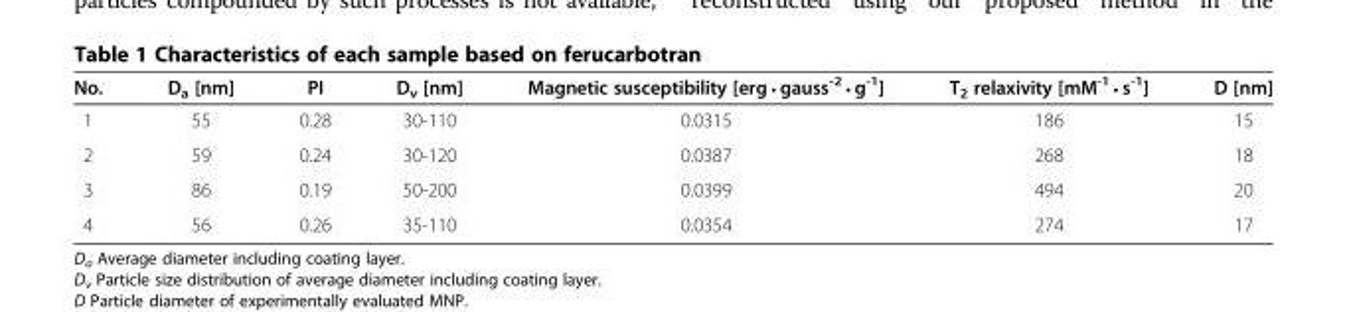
<table><thead><tr><td>No.</td><td>D<sub>a</sub> [nm]</td><td>PI</td><td>D<sub>v</sub> [nm]</td><td>Magnetic susceptibility [erg • gauss-2 • g-1]</td><td>T2 relaxivity [mM-1 • s-1]</td><td>D [nm]</td></tr></thead><tbody><tr><td>1</td><td>55</td><td>0.28</td><td>30-110</td><td>0.0315</td><td>186</td><td>15</td></tr><tr><td>2</td><td>59</td><td>0.24</td><td>30-120</td><td>0.0387</td><td>268</td><td>18</td></tr><tr><td>3</td><td>86</td><td>0.19</td><td>50-200</td><td>0.0399</td><td>494</td><td>20</td></tr><tr><td>4</td><td>56</td><td>0.26</td><td>35-110</td><td>0.0354</td><td>274</td><td>17</td></tr></tbody></table>